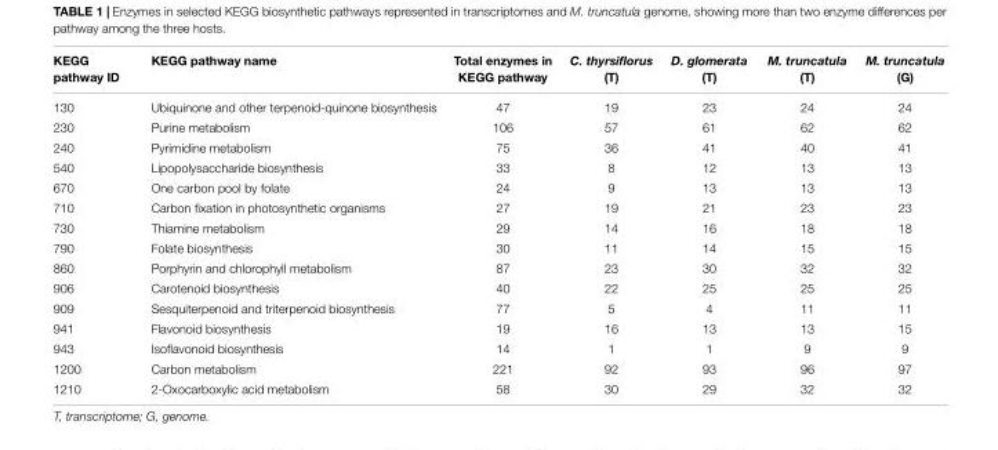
<table><thead><tr><td>KEGG pathway ID</td><td>KEGG pathway name</td><td>Total enzymes in KEGG pathway</td><td>C. thyrsiflorus (T)</td><td>D. glomerata (T)</td><td>M. truncatula (T)</td><td>M. truncatula (G)</td></tr></thead><tbody><tr><td>130</td><td>Ubiquinone and other terpenoid-quinone biosynthesis</td><td>47</td><td>19</td><td>23</td><td>24</td><td>24</td></tr><tr><td>230</td><td>Purine metabolism</td><td>106</td><td>57</td><td>61</td><td>62</td><td>62</td></tr><tr><td>240</td><td>Pyrimidine metabolism</td><td>75</td><td>36</td><td>41</td><td>40</td><td>41</td></tr><tr><td>540</td><td>Lipopolysaccharide biosynthesis</td><td>33</td><td>8</td><td>12</td><td>13</td><td>13</td></tr><tr><td>670</td><td>One carbon pool by folate</td><td>24</td><td>9</td><td>13</td><td>13</td><td>13</td></tr><tr><td>710</td><td>Carbon fixation in photosynthetic organisms</td><td>27</td><td>19</td><td>21</td><td>23</td><td>23</td></tr><tr><td>730</td><td>Thiamine metabolism</td><td>29</td><td>14</td><td>16</td><td>18</td><td>18</td></tr><tr><td>790</td><td>Folate biosynthesis</td><td>30</td><td>11</td><td>14</td><td>15</td><td>15</td></tr><tr><td>860</td><td>Porphyrin and chlorophyll metabolism</td><td>87</td><td>23</td><td>30</td><td>32</td><td>32</td></tr><tr><td>906</td><td>Carotenoid biosynthesis</td><td>40</td><td>22</td><td>25</td><td>25</td><td>25</td></tr><tr><td>909</td><td>Sesquiterpenoid and triterpenoid biosynthesis</td><td>77</td><td>5</td><td>4</td><td>11</td><td>11</td></tr><tr><td>941</td><td>Flavonoid biosynthesis</td><td>19</td><td>16</td><td>13</td><td>13</td><td>15</td></tr><tr><td>943</td><td>Isoflavonoid biosynthesis</td><td>14</td><td>1</td><td>1</td><td>9</td><td>9</td></tr><tr><td>1200</td><td>Carbon metabolism</td><td>221</td><td>92</td><td>93</td><td>96</td><td>97</td></tr><tr><td>1210</td><td>2-Oxocarboxylic acid metabolism</td><td>58</td><td>30</td><td>29</td><td>32</td><td>32</td></tr></tbody></table>